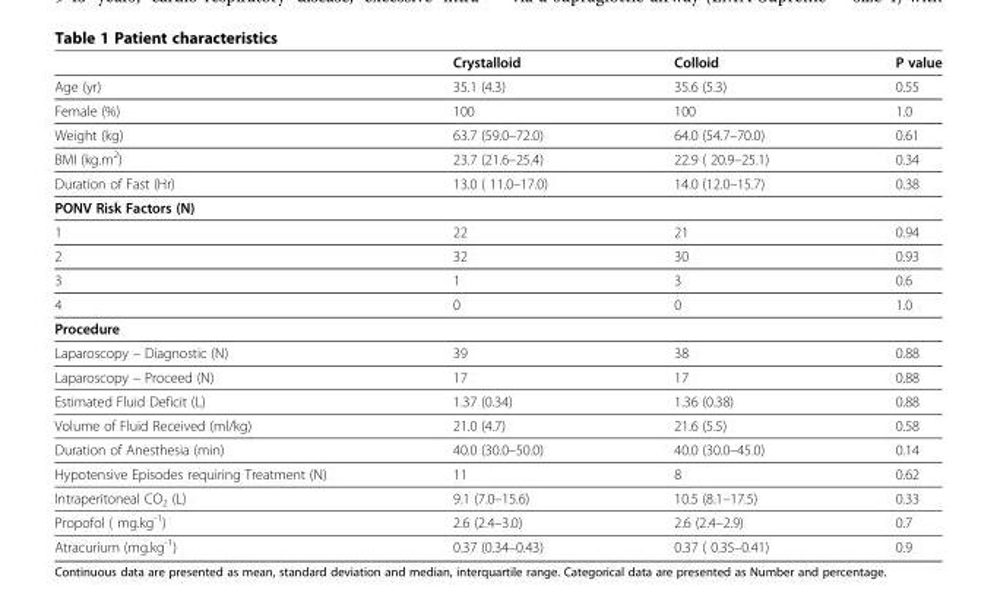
<table><thead><tr><td></td><td>Crystalloid</td><td>Colloid</td><td>P value</td></tr></thead><tbody><tr><td>Age (yr)</td><td>35.1 (4.3)</td><td>35.6 (5.3)</td><td>0.55</td></tr><tr><td>Female (%)</td><td>100</td><td>100</td><td>1.0</td></tr><tr><td>Weight (kg)</td><td>63.7 (59.0–72.0)</td><td>64.0 (54.7–70.0)</td><td>0.61</td></tr><tr><td>BMI (kg.m<sup>2</sup>)</td><td>23.7 (21.6–25.4)</td><td>22.9 ( 20.9–25.1)</td><td>0.34</td></tr><tr><td>Duration of Fast (Hr)</td><td>13.0 ( 11.0–17.0)</td><td>14.0 (12.0–15.7)</td><td>0.38</td></tr><tr><td colspan="4">PONV Risk Factors (N)</td></tr><tr><td>1</td><td>22</td><td>21</td><td>0.94</td></tr><tr><td>2</td><td>32</td><td>30</td><td>0.93</td></tr><tr><td>3</td><td>1</td><td>3</td><td>0.6</td></tr><tr><td>4</td><td>0</td><td>0</td><td>1.0</td></tr><tr><td colspan="4">Procedure</td></tr><tr><td>Laparoscopy – Diagnostic (N)</td><td>39</td><td>38</td><td>0.88</td></tr><tr><td>Laparoscopy – Proceed (N)</td><td>17</td><td>17</td><td>0.88</td></tr><tr><td>Estimated Fluid Deficit (L)</td><td>1.37 (0.34)</td><td>1.36 (0.38)</td><td>0.88</td></tr><tr><td>Volume of Fluid Received (ml/kg)</td><td>21.0 (4.7)</td><td>21.6 (5.5)</td><td>0.58</td></tr><tr><td>Duration of Anesthesia (min)</td><td>40.0 (30.0–50.0)</td><td>40.0 (30.0–45.0)</td><td>0.14</td></tr><tr><td>Hypotensive Episodes requiring Treatment (N)</td><td>11</td><td>8</td><td>0.62</td></tr><tr><td>Intraperitoneal CO<sub>2</sub> (L)</td><td>9.1 (7.0–15.6)</td><td>10.5 (8.1–17.5)</td><td>0.33</td></tr><tr><td>Propofol ( mg.kg<sup>-1</sup>)</td><td>2.6 (2.4–3.0)</td><td>2.6 (2.4–2.9)</td><td>0.7</td></tr><tr><td>Atracurium (mg.kg<sup>-1</sup>)</td><td>0.37 (0.34–0.43)</td><td>0.37 ( 0.35–0.41)</td><td>0.9</td></tr></tbody></table>